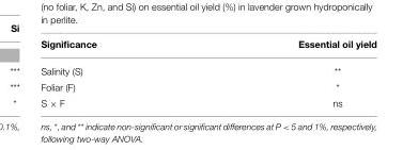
<table><thead><tr><td>Significance</td><td>Essential oil yield</td></tr></thead><tbody><tr><td>Salinity (S)</td><td>**</td></tr><tr><td>Foliar (F)</td><td>*</td></tr><tr><td>S × F</td><td>ns</td></tr></tbody></table>